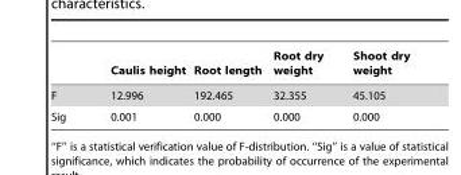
<table><thead><tr><td></td><td>Caulis height</td><td>Root length</td><td>Root dry weight</td><td>Shoot dry weight</td></tr></thead><tbody><tr><td>F</td><td>12.996</td><td>192.465</td><td>32.355</td><td>45.105</td></tr><tr><td>Sig</td><td>0.001</td><td>0.000</td><td>0.000</td><td>0.000</td></tr></tbody></table>